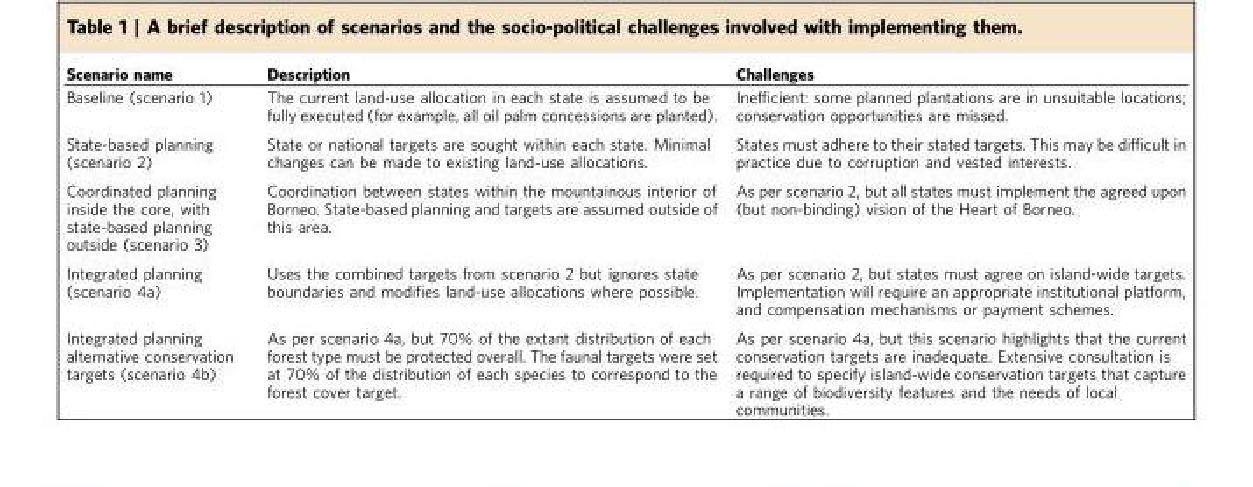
<table><thead><tr><td>Scenario name</td><td>Description</td><td>Challenges</td></tr></thead><tbody><tr><td>Baseline (scenario 1)</td><td>The current land-use allocation in each state is assumed to be fully executed (for example, all oil palm concessions are planted).</td><td>Inefficient: some planned plantations are in unsuitable locations; conservation opportunities are missed.</td></tr><tr><td>State-based planning (scenario 2)</td><td>State or national targets are sought within each state. Minimal changes can be made to existing land-use allocations.</td><td>States must adhere to their stated targets. This may be difficult in practice due to corruption and vested interests.</td></tr><tr><td>Coordinated planning inside the core, with state-based planning outside (scenario 3)</td><td>Coordination between states within the mountainous interior of Borneo. State-based planning and targets are assumed outside of this area.</td><td>As per scenario 2, but all states must implement the agreed upon (but non-binding) vision of the Heart of Borneo.</td></tr><tr><td>Integrated planning (scenario 4a)</td><td>Uses the combined targets from scenario 2 but ignores state boundaries and modifies land-use allocations where possible.</td><td>As per scenario 2, but states must agree on island-wide targets. Implementation will require an appropriate institutional platform, and compensation mechanisms or payment schemes.</td></tr><tr><td>Integrated planning alternative conservation targets (scenario 4b)</td><td>As per scenario 4a, but 70% of the extant distribution of each forest type must be protected overall. The faunal targets were set at 70% of the distribution of each species to correspond to the forest cover target.</td><td>As per scenario 4a, but this scenario highlights that the current conservation targets are inadequate. Extensive consultation is required to specify island-wide conservation targets that capture a range of biodiversity features and the needs of local communities.</td></tr></tbody></table>